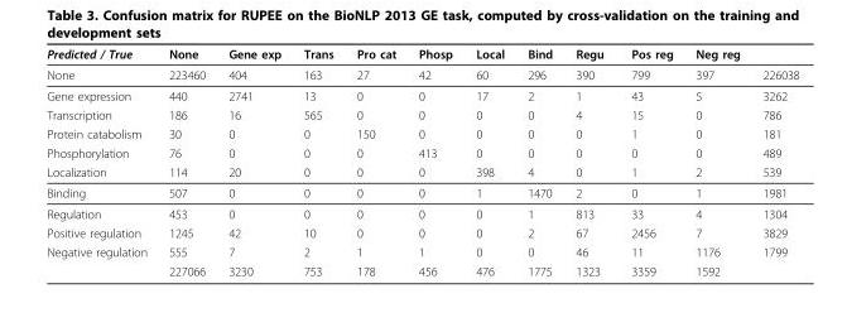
<table><thead><tr><td>Predicted / True</td><td>None</td><td>Gene exp</td><td>Trans</td><td>Pro cat</td><td>Phosp</td><td>Local</td><td>Bind</td><td>Regu</td><td>Pos reg</td><td>Neg reg</td><td></td></tr></thead><tbody><tr><td>None</td><td>223460</td><td>404</td><td>163</td><td>27</td><td>42</td><td>60</td><td>296</td><td>390</td><td>799</td><td>397</td><td>226038</td></tr><tr><td>Gene expression</td><td>440</td><td>2741</td><td>13</td><td>0</td><td>0</td><td>17</td><td>2</td><td>1</td><td>43</td><td>5</td><td>3262</td></tr><tr><td>Transcription</td><td>186</td><td>16</td><td>565</td><td>0</td><td>0</td><td>0</td><td>0</td><td>4</td><td>15</td><td>0</td><td>786</td></tr><tr><td>Protein catabolism</td><td>30</td><td>0</td><td>0</td><td>150</td><td>0</td><td>0</td><td>0</td><td>0</td><td>1</td><td>0</td><td>181</td></tr><tr><td>Phosphorylation</td><td>76</td><td>0</td><td>0</td><td>0</td><td>413</td><td>0</td><td>0</td><td>0</td><td>0</td><td>0</td><td>489</td></tr><tr><td>Localization</td><td>114</td><td>20</td><td>0</td><td>0</td><td>0</td><td>398</td><td>4</td><td>0</td><td>1</td><td>2</td><td>539</td></tr><tr><td>Binding</td><td>507</td><td>0</td><td>0</td><td>0</td><td>0</td><td>1</td><td>1470</td><td>2</td><td>0</td><td>1</td><td>1981</td></tr><tr><td>Regulation</td><td>453</td><td>0</td><td>0</td><td>0</td><td>0</td><td>0</td><td>1</td><td>813</td><td>33</td><td>4</td><td>1304</td></tr><tr><td>Positive regulation</td><td>1245</td><td>42</td><td>10</td><td>0</td><td>0</td><td>0</td><td>2</td><td>67</td><td>2456</td><td>7</td><td>3829</td></tr><tr><td rowspan="2">Negative regulation</td><td>555</td><td>7</td><td>2</td><td>1</td><td>1</td><td>0</td><td>0</td><td>46</td><td>11</td><td>1176</td><td>1799</td></tr><tr><td>227066</td><td>3230</td><td>753</td><td>178</td><td>456</td><td>476</td><td>1775</td><td>1323</td><td>3359</td><td>1592</td><td></td></tr></tbody></table>